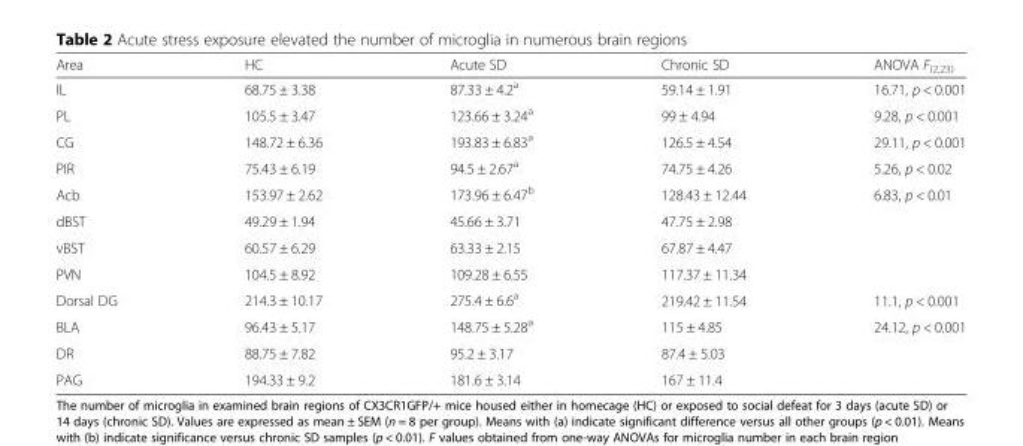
<table><thead><tr><td>Area</td><td>HC</td><td>Acute SD</td><td>Chronic SD</td><td>ANOVA F<sub>(2,23)</sub></td></tr></thead><tbody><tr><td>IL</td><td>68.75 ± 3.38</td><td>87.33 ± 4.2<sup>a</sup></td><td>59.14 ± 1.91</td><td>16.71, p &lt; 0.001</td></tr><tr><td>PL</td><td>105.5 ± 3.47</td><td>123.66 ± 3.24<sup>a</sup></td><td>99 ± 4.94</td><td>9.28, p &lt; 0.001</td></tr><tr><td>CG</td><td>148.72 ± 6.36</td><td>193.83 ± 6.83<sup>a</sup></td><td>126.5 ± 4.54</td><td>29.11, p &lt; 0.001</td></tr><tr><td>PIR</td><td>75.43 ± 6.19</td><td>94.5 ± 2.67<sup>a</sup></td><td>74.75 ± 4.26</td><td>5.26, p &lt; 0.02</td></tr><tr><td>Acb</td><td>153.97 ± 2.62</td><td>173.96 ± 6.47<sup>b</sup></td><td>128.43 ± 12.44</td><td>6.83, p &lt; 0.01</td></tr><tr><td>dBST</td><td>49.29 ± 1.94</td><td>45.66 ± 3.71</td><td>47.75 ± 2.98</td><td></td></tr><tr><td>vBST</td><td>60.57 ± 6.29</td><td>63.33 ± 2.15</td><td>67.87 ± 4.47</td><td></td></tr><tr><td>PVN</td><td>104.5 ± 8.92</td><td>109.28 ± 6.55</td><td>117.37 ± 11.34</td><td></td></tr><tr><td>Dorsal DG</td><td>214.3 ± 10.17</td><td>275.4 ± 6.6<sup>a</sup></td><td>219.42 ± 11.54</td><td>11.1, p &lt; 0.001</td></tr><tr><td>BLA</td><td>96.43 ± 5.17</td><td>148.75 ± 5.28<sup>a</sup></td><td>115 ± 4.85</td><td>24.12, p &lt; 0.001</td></tr><tr><td>DR</td><td>88.75 ± 7.82</td><td>95.2 ± 3.17</td><td>87.4 ± 5.03</td><td></td></tr><tr><td>PAG</td><td>194.33 ± 9.2</td><td>181.6 ± 3.14</td><td>167 ± 11.4</td><td></td></tr></tbody></table>